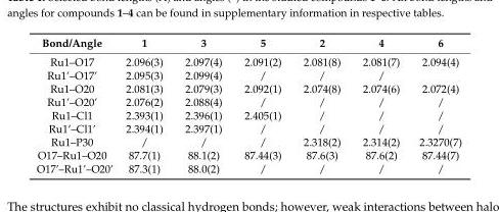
<table><thead><tr><td>Bond/Angle</td><td>1</td><td>3</td><td>5</td><td>2</td><td>4</td><td>6</td></tr></thead><tbody><tr><td>Ru1–O17</td><td>2.096(3)</td><td>2.097(4)</td><td>2.091(2)</td><td>2.081(8)</td><td>2.081(7)</td><td>2.094(4)</td></tr><tr><td>Ru1’–O17’</td><td>2.095(3)</td><td>2.099(4)</td><td>/</td><td>/</td><td>/</td><td></td></tr><tr><td>Ru1–O20</td><td>2.081(3)</td><td>2.079(3)</td><td>2.092(1)</td><td>2.074(8)</td><td>2.074(6)</td><td>2.072(4)</td></tr><tr><td>Ru1’–O20’</td><td>2.076(2)</td><td>2.088(4)</td><td>/</td><td>/</td><td>/</td><td>/</td></tr><tr><td>Ru1–Cl1</td><td>2.393(1)</td><td>2.396(1)</td><td>2.405(1)</td><td>/</td><td>/</td><td>/</td></tr><tr><td>Ru1’–Cl1’</td><td>2.394(1)</td><td>2.397(1)</td><td>/</td><td>/</td><td>/</td><td>/</td></tr><tr><td>Ru1–P30</td><td>/</td><td>/</td><td>/</td><td>2.318(2)</td><td>2.314(2)</td><td>2.3270(7)</td></tr><tr><td>O17–Ru1–O20</td><td>87.7(1)</td><td>88.1(2)</td><td>87.44(3)</td><td>87.6(3)</td><td>87.6(2)</td><td>87.44(7)</td></tr><tr><td>O17’–Ru1’–O20’</td><td>87.3(1)</td><td>88.0(2)</td><td>/</td><td>/</td><td>/</td><td>/</td></tr></tbody></table>